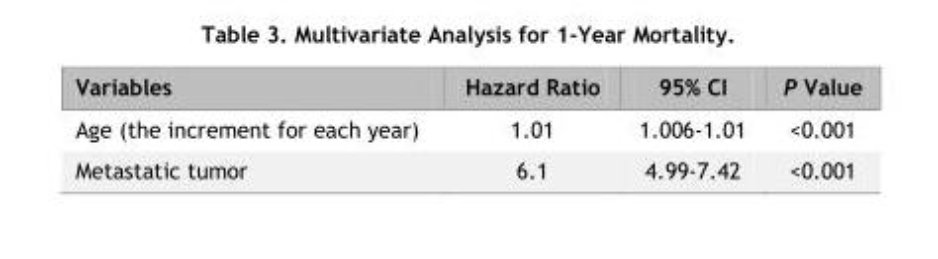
<table><thead><tr><td>Variables</td><td>Hazard Ratio</td><td>95% CI</td><td>P Value</td></tr></thead><tbody><tr><td>Age (the increment for each year)</td><td>1.01</td><td>1.006-1.01</td><td>&lt;0.001</td></tr><tr><td>Metastatic tumor</td><td>6.1</td><td>4.99-7.42</td><td>&lt;0.001</td></tr></tbody></table>